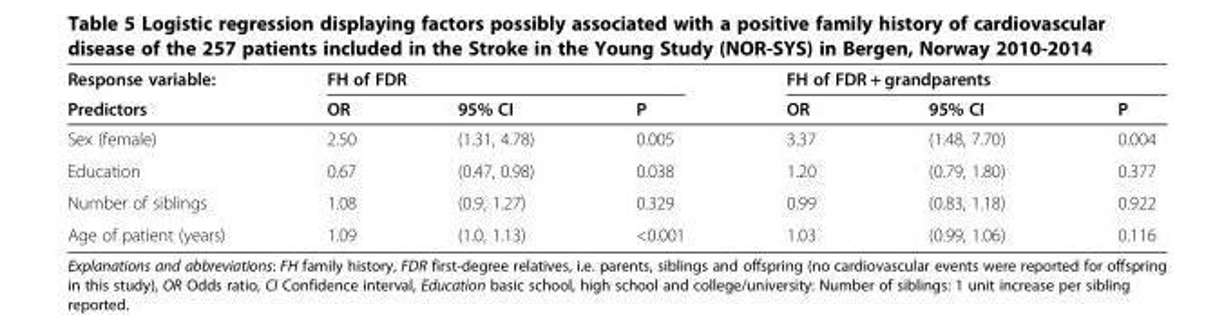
<table><thead><tr><td rowspan="2">Response variable: Predictors</td><td colspan="3">FH of FDR</td><td colspan="3">FH of FDR + grandparents</td></tr><tr><td>OR</td><td>95% CI</td><td>P</td><td>OR</td><td>95% CI</td><td>P</td></tr></thead><tbody><tr><td>Sex (female)</td><td>2.50</td><td>(1.31, 4.78)</td><td>0.005</td><td>3.37</td><td>(1.48, 7.70)</td><td>0.004</td></tr><tr><td>Education</td><td>0.67</td><td>(0.47, 0.98)</td><td>0.038</td><td>1.20</td><td>(0.79, 1.80)</td><td>0.377</td></tr><tr><td>Number of siblings</td><td>1.08</td><td>(0.9, 1.27)</td><td>0.329</td><td>0.99</td><td>(0.83, 1.18)</td><td>0.922</td></tr><tr><td>Age of patient (years)</td><td>1.09</td><td>(1.0, 1.13)</td><td>&lt;0.001</td><td>1.03</td><td>(0.99, 1.06)</td><td>0.116</td></tr></tbody></table>